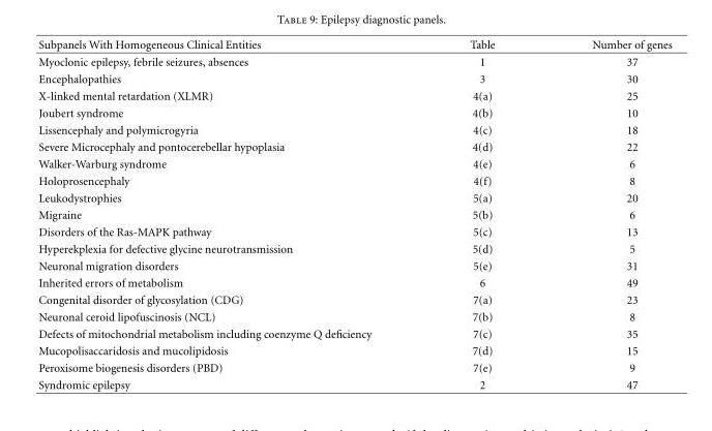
<table><thead><tr><td>Subpanels With Homogeneous Clinical Entities</td><td>Table</td><td>Number of genes</td></tr></thead><tbody><tr><td>Myoclonic epilepsy, febrile seizures, absences</td><td>1</td><td>37</td></tr><tr><td>Encephalopathies</td><td>3</td><td>30</td></tr><tr><td>X-linked mental retardation (XLMR)</td><td>4(a)</td><td>25</td></tr><tr><td>Joubert syndrome</td><td>4(b)</td><td>10</td></tr><tr><td>Lissencephaly and polymicrogyria</td><td>4(c)</td><td>18</td></tr><tr><td>Severe Microcephaly and pontocerebellar hypoplasia</td><td>4(d)</td><td>22</td></tr><tr><td>Walker-Warburg syndrome</td><td>4(e)</td><td>6</td></tr><tr><td>Holoprosencephaly</td><td>4(f)</td><td>8</td></tr><tr><td>Leukodystrophies</td><td>5(a)</td><td>20</td></tr><tr><td>Migraine</td><td>5(b)</td><td>6</td></tr><tr><td>Disorders of the Ras-MAPK pathway</td><td>5(c)</td><td>13</td></tr><tr><td>Hyperekplexia for defective glycine neurotransmission</td><td>5(d)</td><td>5</td></tr><tr><td>Neuronal migration disorders</td><td>5(e)</td><td>31</td></tr><tr><td>Inherited errors of metabolism</td><td>6</td><td>49</td></tr><tr><td>Congenital disorder of glycosylation (CDG)</td><td>7(a)</td><td>23</td></tr><tr><td>Neuronal ceroid lipofuscinosis (NCL)</td><td>7(b)</td><td>8</td></tr><tr><td>Defects of mitochondrial metabolism including coenzyme Q deficiency</td><td>7(c)</td><td>35</td></tr><tr><td>Mucopolisaccaridosis and mucolipidosis</td><td>7(d)</td><td>15</td></tr><tr><td>Peroxisome biogenesis disorders (PBD)</td><td>7(e)</td><td>9</td></tr><tr><td>Syndromic epilepsy</td><td>2</td><td>47</td></tr></tbody></table>